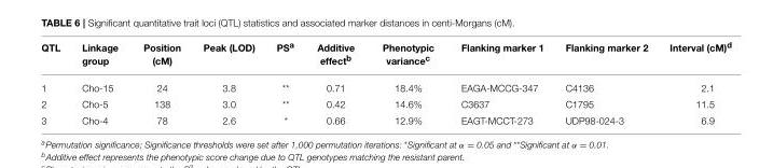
<table><thead><tr><td>QTL</td><td>Linkage group</td><td>Position (cM)</td><td>Peak (LOD)</td><td>PS<sup>a</sup></td><td>Additive effect<sup>b</sup></td><td>Phenotypic variance<sup>c</sup></td><td>Flanking marker 1</td><td>Flanking marker 2</td><td>Interval (cM)<sup>d</sup></td></tr></thead><tbody><tr><td>1</td><td>Cho-15</td><td>24</td><td>3.8</td><td>**</td><td>0.71</td><td>18.4%</td><td>EAGA-MCCG-347</td><td>C4136</td><td>2.1</td></tr><tr><td>2</td><td>Cho-5</td><td>138</td><td>3.0</td><td>**</td><td>0.42</td><td>14.6%</td><td>C3637</td><td>C1795</td><td>11.5</td></tr><tr><td>3</td><td>Cho-4</td><td>78</td><td>2.6</td><td>*</td><td>0.66</td><td>12.9%</td><td>EAGT-MCCT-273</td><td>UDP98-024-3</td><td>6.9</td></tr></tbody></table>